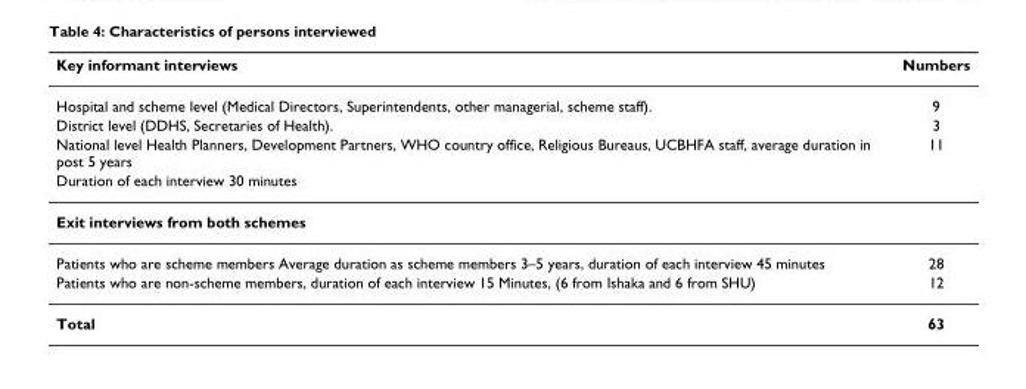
<table><thead><tr><td>Key informant interviews</td><td>Numbers</td></tr></thead><tbody><tr><td>Hospital and scheme level (Medical Directors, Superintendents, other managerial, scheme staff).</td><td>9</td></tr><tr><td>District level (DDHS, Secretaries of Health).</td><td>3</td></tr><tr><td>National level Health Planners, Development Partners, WHO country office, Religious Bureaus, UCBHFA staff, average duration in post 5 years</td><td>11</td></tr><tr><td colspan="2">Duration of each interview 30 minutes</td></tr><tr><td colspan="2">Exit interviews from both schemes</td></tr><tr><td>Patients who are scheme members Average duration as scheme members 3–5 years, duration of each interview 45 minutes</td><td>28</td></tr><tr><td>Patients who are non-scheme members, duration of each interview 15 Minutes, (6 from Ishaka and 6 from SHU)</td><td>12</td></tr><tr><td>Total</td><td>63</td></tr></tbody></table>